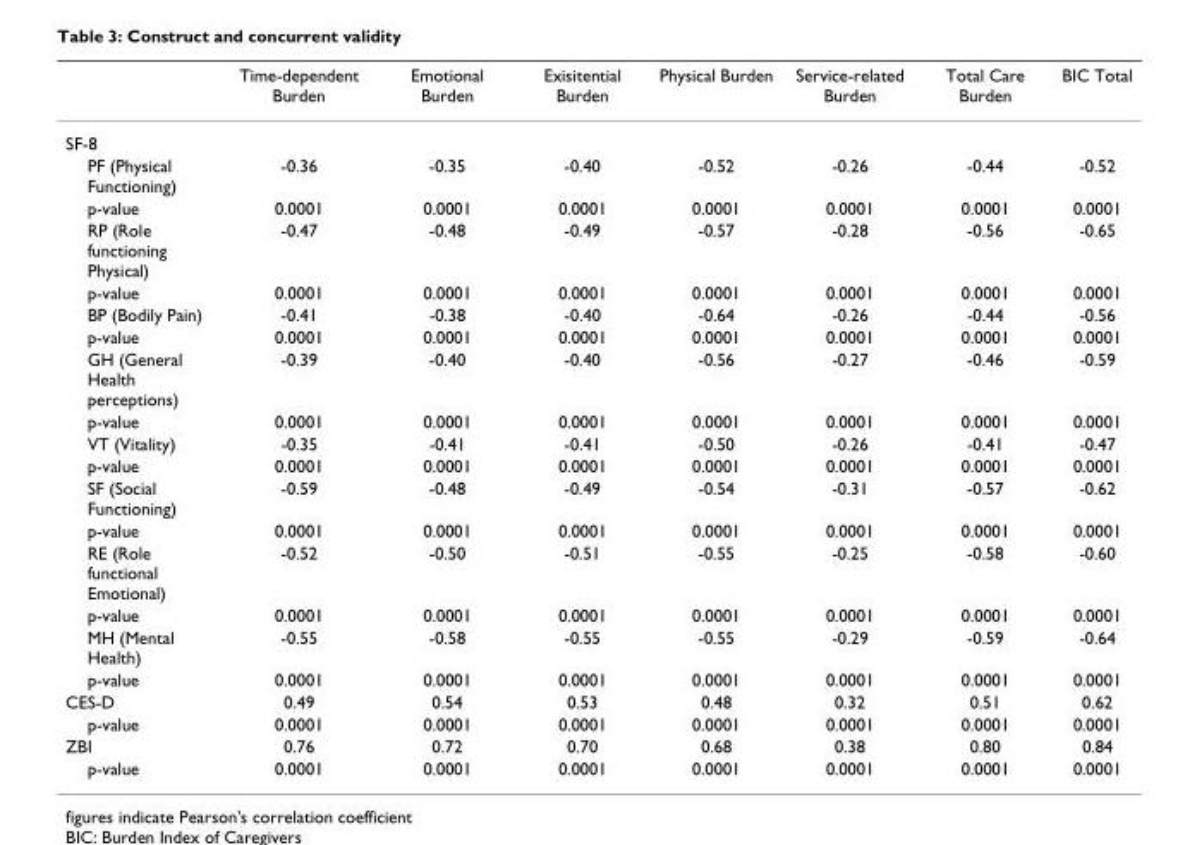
<table><thead><tr><td></td><td>Time-dependent Burden</td><td>Emotional Burden</td><td>Exisitential Burden</td><td>Physical Burden</td><td>Service-related Burden</td><td>Total Care Burden</td><td>BIC Total</td></tr></thead><tbody><tr><td colspan="8">SF-8</td></tr><tr><td>PF (Physical Functioning)</td><td>-0.36</td><td>-0.35</td><td>-0.40</td><td>-0.52</td><td>-0.26</td><td>-0.44</td><td>-0.52</td></tr><tr><td>p-value</td><td>0.0001</td><td>0.0001</td><td>0.0001</td><td>0.0001</td><td>0.0001</td><td>0.0001</td><td>0.0001</td></tr><tr><td>RP (Role functioning Physical)</td><td>-0.47</td><td>-0.48</td><td>-0.49</td><td>-0.57</td><td>-0.28</td><td>-0.56</td><td>-0.65</td></tr><tr><td>p-value</td><td>0.0001</td><td>0.0001</td><td>0.0001</td><td>0.0001</td><td>0.0001</td><td>0.0001</td><td>0.0001</td></tr><tr><td>BP (Bodily Pain)</td><td>-0.41</td><td>-0.38</td><td>-0.40</td><td>-0.64</td><td>-0.26</td><td>-0.44</td><td>-0.56</td></tr><tr><td>p-value</td><td>0.0001</td><td>0.0001</td><td>0.0001</td><td>0.0001</td><td>0.0001</td><td>0.0001</td><td>0.0001</td></tr><tr><td>GH (General Health perceptions)</td><td>-0.39</td><td>-0.40</td><td>-0.40</td><td>-0.56</td><td>-0.27</td><td>-0.46</td><td>-0.59</td></tr><tr><td>p-value</td><td>0.0001</td><td>0.0001</td><td>0.0001</td><td>0.0001</td><td>0.0001</td><td>0.0001</td><td>0.0001</td></tr><tr><td>VT (Vitality)</td><td>-0.35</td><td>-0.41</td><td>-0.41</td><td>-0.50</td><td>-0.26</td><td>-0.41</td><td>-0.47</td></tr><tr><td>p-value</td><td>0.0001</td><td>0.0001</td><td>0.0001</td><td>0.0001</td><td>0.0001</td><td>0.0001</td><td>0.0001</td></tr><tr><td>SF (Social Functioning)</td><td>-0.59</td><td>-0.48</td><td>-0.49</td><td>-0.54</td><td>-0.31</td><td>-0.57</td><td>-0.62</td></tr><tr><td>p-value</td><td>0.0001</td><td>0.0001</td><td>0.0001</td><td>0.0001</td><td>0.0001</td><td>0.0001</td><td>0.0001</td></tr><tr><td>RE (Role functional Emotional)</td><td>-0.52</td><td>-0.50</td><td>-0.51</td><td>-0.55</td><td>-0.25</td><td>-0.58</td><td>-0.60</td></tr><tr><td>p-value</td><td>0.0001</td><td>0.0001</td><td>0.0001</td><td>0.0001</td><td>0.0001</td><td>0.0001</td><td>0.0001</td></tr><tr><td>MH (Mental Health)</td><td>-0.55</td><td>-0.58</td><td>-0.55</td><td>-0.55</td><td>-0.29</td><td>-0.59</td><td>-0.64</td></tr><tr><td>p-value</td><td>0.0001</td><td>0.0001</td><td>0.0001</td><td>0.0001</td><td>0.0001</td><td>0.0001</td><td>0.0001</td></tr><tr><td>CES-D</td><td>0.49</td><td>0.54</td><td>0.53</td><td>0.48</td><td>0.32</td><td>0.51</td><td>0.62</td></tr><tr><td>p-value</td><td>0.0001</td><td>0.0001</td><td>0.0001</td><td>0.0001</td><td>0.0001</td><td>0.0001</td><td>0.0001</td></tr><tr><td>ZBI</td><td>0.76</td><td>0.72</td><td>0.70</td><td>0.68</td><td>0.38</td><td>0.80</td><td>0.84</td></tr><tr><td>p-value</td><td>0.0001</td><td>0.0001</td><td>0.0001</td><td>0.0001</td><td>0.0001</td><td>0.0001</td><td>0.0001</td></tr></tbody></table>